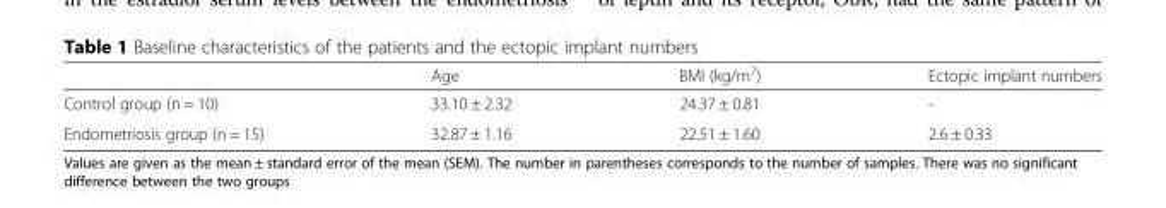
<table><thead><tr><td></td><td>Age</td><td>BMI (kg/m<sup>2</sup>)</td><td>Ectopic implant numbers</td></tr></thead><tbody><tr><td>Control group (n = 10)</td><td>33.10 ± 2.32</td><td>24.37 ± 0.81</td><td>-</td></tr><tr><td>Endometriosis group (n = 15)</td><td>32.87 ± 1.16</td><td>22.51 ± 1.60</td><td>2.6 ± 0.33</td></tr></tbody></table>